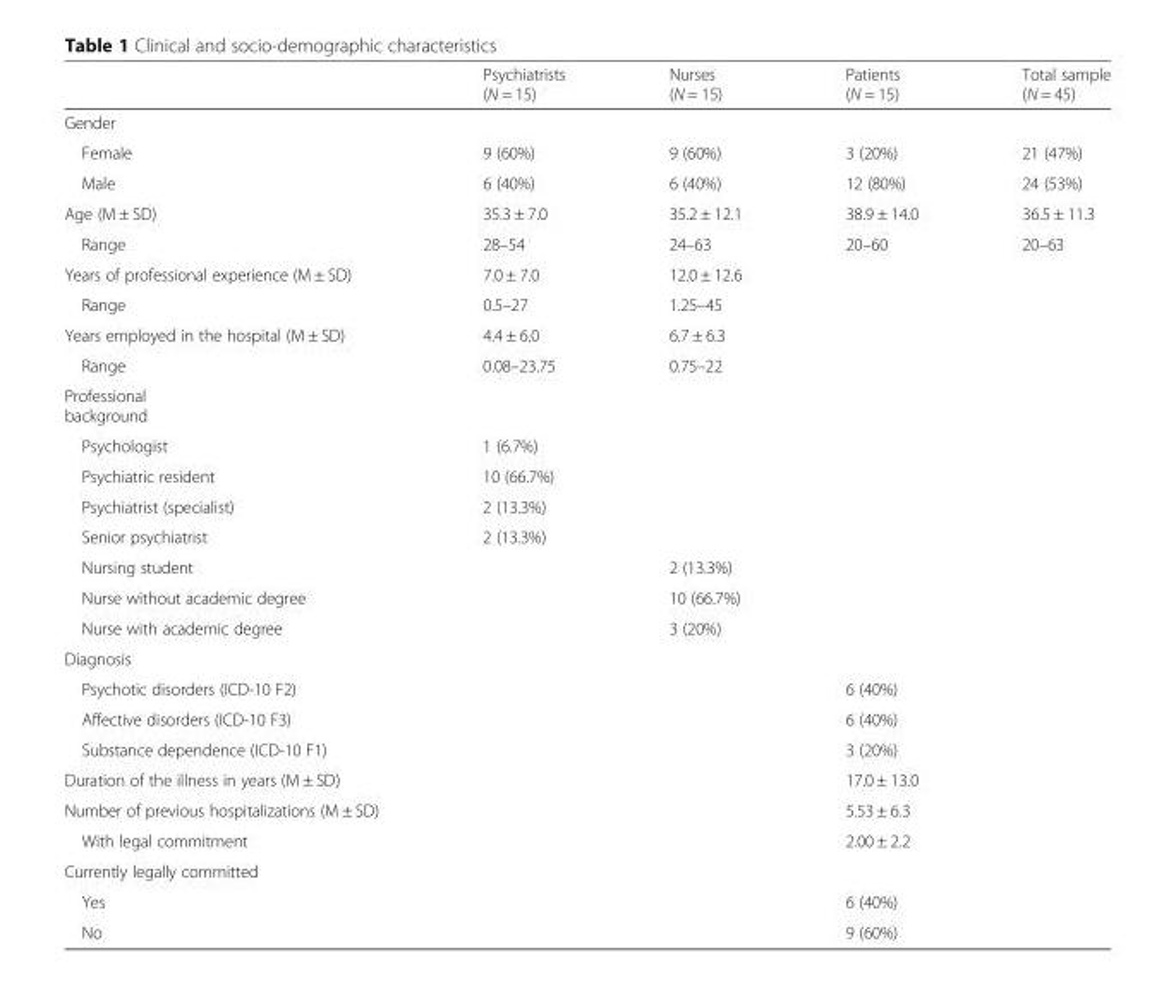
<table><thead><tr><td></td><td>Psychiatrists (N = 15)</td><td>Nurses (N = 15)</td><td>Patients (N = 15)</td><td>Total sample (N = 45)</td></tr></thead><tbody><tr><td colspan="5">Gender</td></tr><tr><td>Female</td><td>9 (60%)</td><td>9 (60%)</td><td>3 (20%)</td><td>21 (47%)</td></tr><tr><td>Male</td><td>6 (40%)</td><td>6 (40%)</td><td>12 (80%)</td><td>24 (53%)</td></tr><tr><td>Age (M ± SD)</td><td>35.3 ± 7.0</td><td>35.2 ± 12.1</td><td>38.9 ± 14.0</td><td>36.5 ± 11.3</td></tr><tr><td>Range</td><td>28–54</td><td>24–63</td><td>20–60</td><td>20–63</td></tr><tr><td>Years of professional experience (M ± SD)</td><td>7.0 ± 7.0</td><td>12.0 ± 12.6</td><td></td><td></td></tr><tr><td>Range</td><td>0.5–27</td><td>1.25–45</td><td></td><td></td></tr><tr><td>Years employed in the hospital (M ± SD)</td><td>4.4 ± 6.0</td><td>6.7 ± 6.3</td><td></td><td></td></tr><tr><td>Range</td><td>0.08–23.75</td><td>0.75–22</td><td></td><td></td></tr><tr><td colspan="5">Professional background</td></tr><tr><td>Psychologist</td><td>1 (6.7%)</td><td></td><td></td><td></td></tr><tr><td>Psychiatric resident</td><td>10 (66.7%)</td><td></td><td></td><td></td></tr><tr><td>Psychiatrist (specialist)</td><td>2 (13.3%)</td><td></td><td></td><td></td></tr><tr><td>Senior psychiatrist</td><td>2 (13.3%)</td><td></td><td></td><td></td></tr><tr><td>Nursing student</td><td></td><td>2 (13.3%)</td><td></td><td></td></tr><tr><td>Nurse without academic degree</td><td></td><td>10 (66.7%)</td><td></td><td></td></tr><tr><td>Nurse with academic degree</td><td></td><td>3 (20%)</td><td></td><td></td></tr><tr><td colspan="5">Diagnosis</td></tr><tr><td>Psychotic disorders (ICD-10 F2)</td><td></td><td></td><td>6 (40%)</td><td></td></tr><tr><td>Affective disorders (ICD-10 F3)</td><td></td><td></td><td>6 (40%)</td><td></td></tr><tr><td>Substance dependence (ICD-10 F1)</td><td></td><td></td><td>3 (20%)</td><td></td></tr><tr><td>Duration of the illness in years (M ± SD)</td><td></td><td></td><td>17.0 ± 13.0</td><td></td></tr><tr><td>Number of previous hospitalizations (M ± SD)</td><td></td><td></td><td>5.53 ± 6.3</td><td></td></tr><tr><td>With legal commitment</td><td></td><td></td><td>2.00 ± 2.2</td><td></td></tr><tr><td colspan="5">Currently legally committed</td></tr><tr><td>Yes</td><td></td><td></td><td>6 (40%)</td><td></td></tr><tr><td>No</td><td></td><td></td><td>9 (60%)</td><td></td></tr></tbody></table>